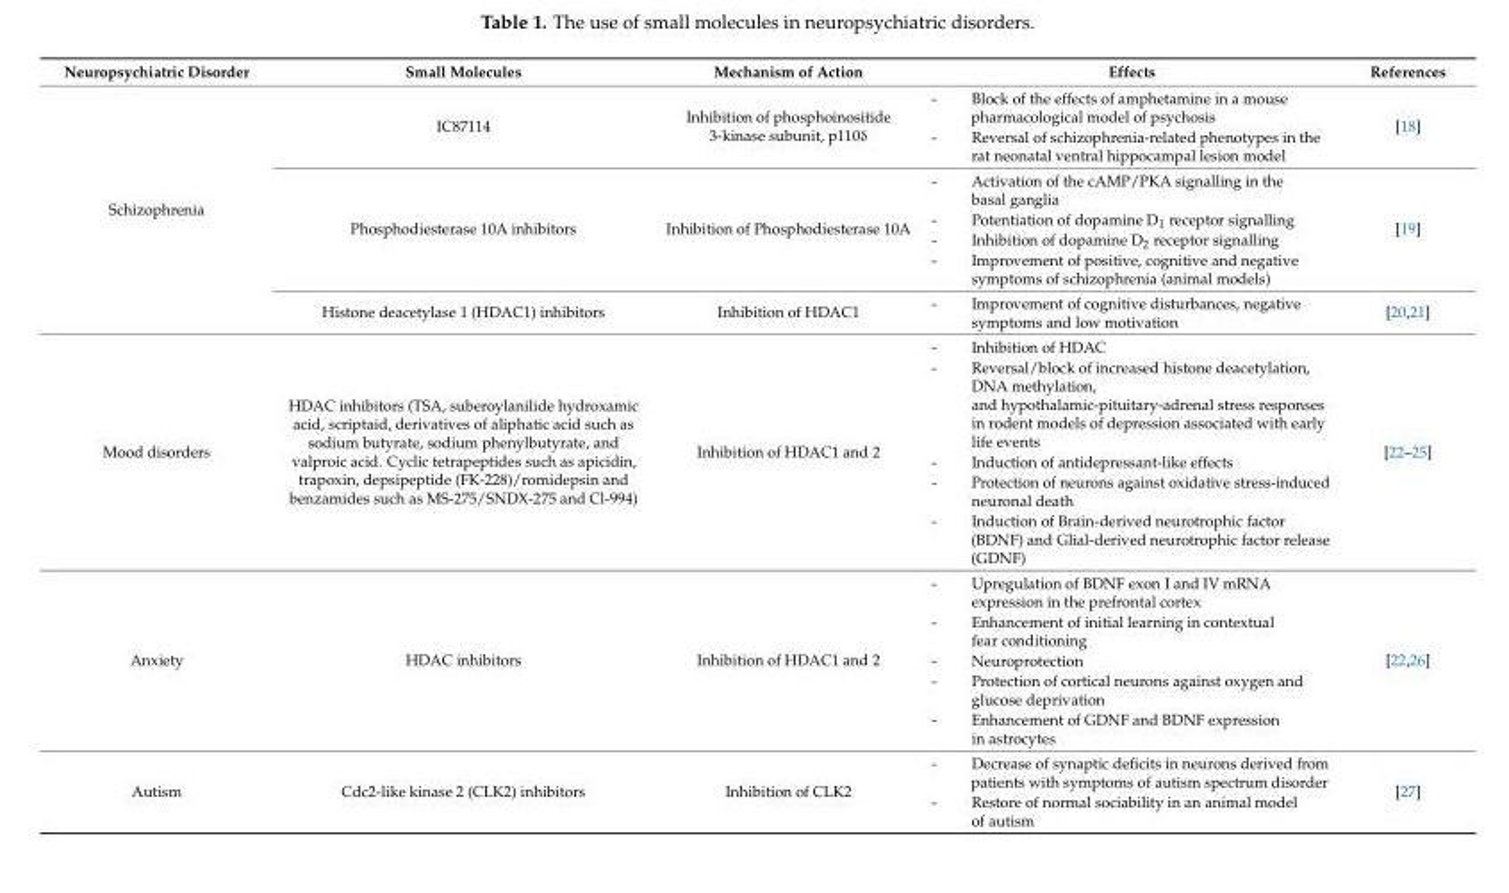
<table><thead><tr><td>Neuropsychiatric Disorder</td><td>Small Molecules</td><td>Mechanism of Action</td><td>Effects</td><td>References</td></tr></thead><tbody><tr><td rowspan="3">Schizophrenia</td><td>IC87114</td><td>Inhibition of phosphoinositide 3-kinase subunit, p110δ</td><td>- Block of the effects of amphetamine in a mouse pharmacological model of psychosis - Reversal of schizophrenia-related phenotypes in the rat neonatal ventral hippocampal lesion model</td><td>[18]</td></tr><tr><td>Phosphodiesterase 10A inhibitors</td><td>Inhibition of Phosphodiesterase 10A</td><td>- Activation of the cAMP/PKA signalling in the basal ganglia - Potentiation of dopamine D<sub>1</sub> receptor signalling - Inhibition of dopamine D<sub>2</sub> receptor signalling - Improvement of positive, cognitive and negative symptoms of schizophrenia (animal models)</td><td>[19]</td></tr><tr><td>Histone deacetylase 1 (HDAC1) inhibitors</td><td>Inhibition of HDAC1</td><td>- Improvement of cognitive disturbances, negative symptoms and low motivation</td><td>[20,21]</td></tr><tr><td>Mood disorders</td><td>HDAC inhibitors (TSA, suberoylanilide hydroxamic acid, scriptaid, derivatives of aliphatic acid such as sodium butyrate, sodium phenylbutyrate, and valproic acid. Cyclic tetrapeptides such as apicidin, trapoxin, depsipeptide (FK-228)/romidepsin and benzamides such as MS-275/SNDX-275 and Cl-994)</td><td>Inhibition of HDAC1 and 2</td><td>- Inhibition of HDAC - Reversal/block of increased histone deacetylation, DNA methylation, and hypothalamic-pituitary-adrenal stress responses in rodent models of depression associated with early life events - Induction of antidepressant-like effects - Protection of neurons against oxidative stress-induced neuronal death - Induction of Brain-derived neurotrophic factor (BDNF) and Glial-derived neurotrophic factor release (GDNF)</td><td>[22–25]</td></tr><tr><td>Anxiety</td><td>HDAC inhibitors</td><td>Inhibition of HDAC1 and 2</td><td>- Upregulation of BDNF exon I and IV mRNA expression in the prefrontal cortex - Enhancement of initial learning in contextual fear conditioning - Neuroprotection - Protection of cortical neurons against oxygen and glucose deprivation - Enhancement of GDNF and BDNF expression in astrocytes</td><td>[22,26]</td></tr><tr><td>Autism</td><td>Cdc2-like kinase 2 (CLK2) inhibitors</td><td>Inhibition of CLK2</td><td>- Decrease of synaptic deficits in neurons derived from patients with symptoms of autism spectrum disorder - Restore of normal sociability in an animal model of autism</td><td>[27]</td></tr></tbody></table>